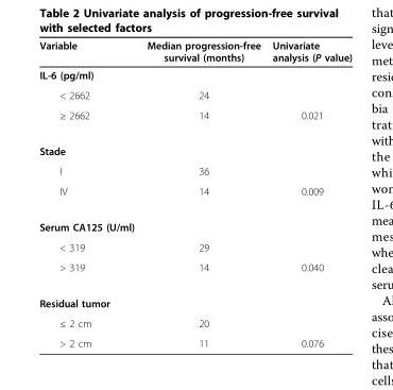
<table><thead><tr><td>Variable</td><td>Median progression-free survival (months)</td><td>Univariate analysis (P value)</td></tr></thead><tbody><tr><td colspan="3">IL-6 (pg/ml)</td></tr><tr><td>&lt; 2662</td><td>24</td><td></td></tr><tr><td>≥ 2662</td><td>14</td><td>0.021</td></tr><tr><td colspan="3">Stade</td></tr><tr><td>I</td><td>36</td><td></td></tr><tr><td>IV</td><td>14</td><td>0.009</td></tr><tr><td colspan="3">Serum CA125 (U/ml)</td></tr><tr><td>&lt; 319</td><td>29</td><td></td></tr><tr><td>&gt; 319</td><td>14</td><td>0.040</td></tr><tr><td colspan="3">Residual tumor</td></tr><tr><td>≤ 2 cm</td><td>20</td><td></td></tr><tr><td>&gt; 2 cm</td><td>11</td><td>0.076</td></tr></tbody></table>